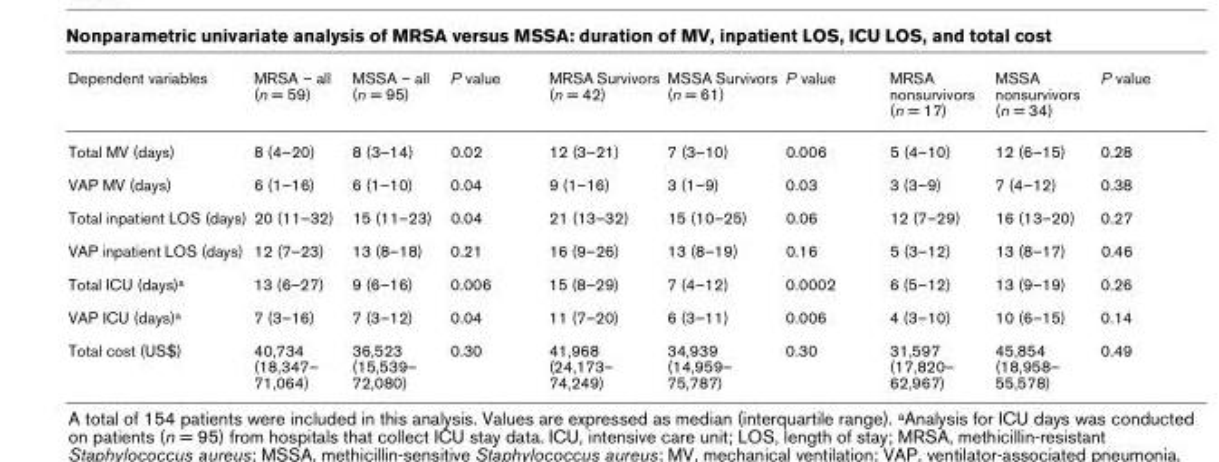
<table><thead><tr><td>Dependent variables</td><td>MRSA – all (n = 59)</td><td>MSSA – all (n = 95)</td><td>P value</td><td>MRSA Survivors (n = 42)</td><td>MSSA Survivors (n = 61)</td><td>P value</td><td>MRSA nonsurvivors (n = 17)</td><td>MSSA nonsurvivors (n = 34)</td><td>P value</td></tr></thead><tbody><tr><td>Total MV (days)</td><td>8 (4–20)</td><td>8 (3–14)</td><td>0.02</td><td>12 (3–21)</td><td>7 (3–10)</td><td>0.006</td><td>5 (4–10)</td><td>12 (6–15)</td><td>0.28</td></tr><tr><td>VAP MV (days)</td><td>6 (1–16)</td><td>6 (1–10)</td><td>0.04</td><td>9 (1–16)</td><td>3 (1–9)</td><td>0.03</td><td>3 (3–9)</td><td>7 (4–12)</td><td>0.38</td></tr><tr><td>Total inpatient LOS (days)</td><td>20 (11–32)</td><td>15 (11–23)</td><td>0.04</td><td>21 (13–32)</td><td>15 (10–25)</td><td>0.06</td><td>12 (7–29)</td><td>16 (13–20)</td><td>0.27</td></tr><tr><td>VAP inpatient LOS (days)</td><td>12 (7–23)</td><td>13 (8–18)</td><td>0.21</td><td>16 (9–26)</td><td>13 (8–19)</td><td>0.16</td><td>5 (3–12)</td><td>13 (8–17)</td><td>0.46</td></tr><tr><td>Total ICU (days)a</td><td>13 (6–27)</td><td>9 (6–16)</td><td>0.006</td><td>15 (8–29)</td><td>7 (4–12)</td><td>0.0002</td><td>6 (5–12)</td><td>13 (9–19)</td><td>0.26</td></tr><tr><td>VAP ICU (days)a</td><td>7 (3–16)</td><td>7 (3–12)</td><td>0.04</td><td>11 (7–20)</td><td>6 (3–11)</td><td>0.006</td><td>4 (3–10)</td><td>10 (6–15)</td><td>0.14</td></tr><tr><td>Total cost (US$)</td><td>40,734 (18,347– 71,064)</td><td>36,523 (15,539– 72,080)</td><td>0.30</td><td>41,968 (24,173– 74,249)</td><td>34,939 (14,959– 75,787)</td><td>0.30</td><td>31,597 (17,820– 62,967)</td><td>45,854 (18,958– 55,578)</td><td>0.49</td></tr></tbody></table>